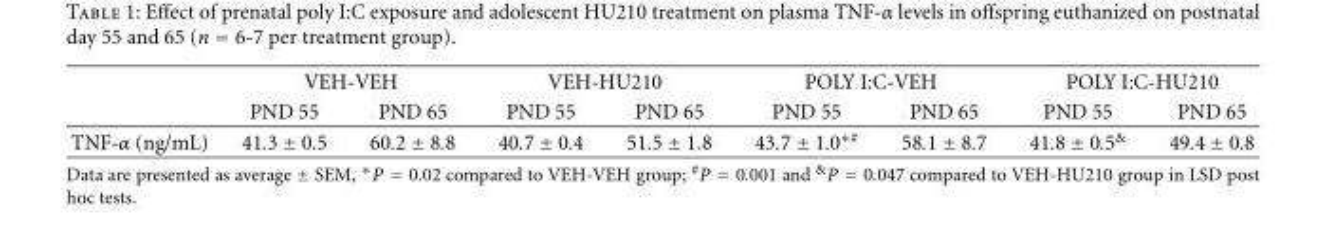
<table><thead><tr><td rowspan="2"></td><td colspan="2">VEH-VEH</td><td colspan="2">VEH-HU210</td><td colspan="2">POLY I:C-VEH</td><td colspan="2">POLY I:C-HU210</td></tr><tr><td>PND 55</td><td>PND 65</td><td>PND 55</td><td>PND 65</td><td>PND 55</td><td>PND 65</td><td>PND 55</td><td>PND 65</td></tr></thead><tbody><tr><td>TNF-α (ng/mL)</td><td>41.3 ± 0.5</td><td>60.2 ± 8.8</td><td>40.7 ± 0.4</td><td>51.5 ± 1.8</td><td>43.7 ± 1.0<sup>∗#</sup></td><td>58.1 ± 8.7</td><td>41.8 ± 0.5<sup>&amp;</sup></td><td>49.4 ± 0.8</td></tr></tbody></table>